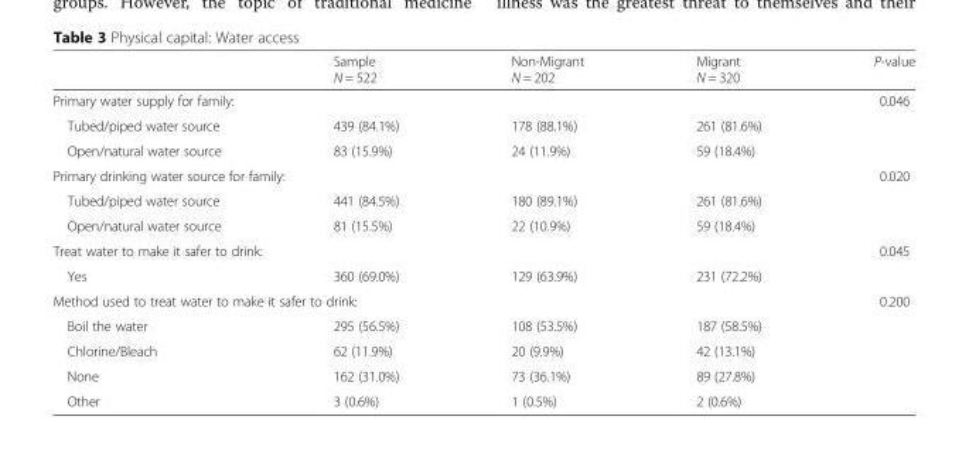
<table><thead><tr><td></td><td>Sample N = 522</td><td>Non-Migrant N = 202</td><td>Migrant N = 320</td><td>P-value</td></tr></thead><tbody><tr><td colspan="4">Primary water supply for family:</td><td>0.046</td></tr><tr><td>Tubed/piped water source</td><td>439 (84.1%)</td><td>178 (88.1%)</td><td>261 (81.6%)</td><td></td></tr><tr><td>Open/natural water source</td><td>83 (15.9%)</td><td>24 (11.9%)</td><td>59 (18.4%)</td><td></td></tr><tr><td colspan="4">Primary drinking water source for family:</td><td>0.020</td></tr><tr><td>Tubed/piped water source</td><td>441 (84.5%)</td><td>180 (89.1%)</td><td>261 (81.6%)</td><td></td></tr><tr><td>Open/natural water source</td><td>81 (15.5%)</td><td>22 (10.9%)</td><td>59 (18.4%)</td><td></td></tr><tr><td colspan="4">Treat water to make it safer to drink:</td><td>0.045</td></tr><tr><td>Yes</td><td>360 (69.0%)</td><td>129 (63.9%)</td><td>231 (72.2%)</td><td></td></tr><tr><td colspan="4">Method used to treat water to make it safer to drink:</td><td>0.200</td></tr><tr><td>Boil the water</td><td>295 (56.5%)</td><td>108 (53.5%)</td><td>187 (58.5%)</td><td></td></tr><tr><td>Chlorine/Bleach</td><td>62 (11.9%)</td><td>20 (9.9%)</td><td>42 (13.1%)</td><td></td></tr><tr><td>None</td><td>162 (31.0%)</td><td>73 (36.1%)</td><td>89 (27.8%)</td><td></td></tr><tr><td>Other</td><td>3 (0.6%)</td><td>1 (0.5%)</td><td>2 (0.6%)</td><td></td></tr></tbody></table>